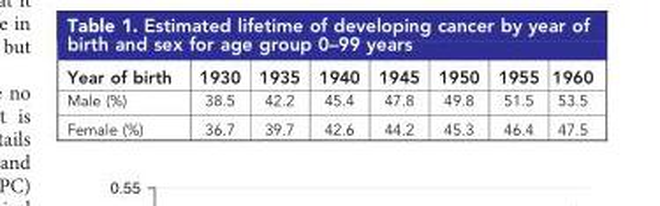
<table><thead><tr><td>Year of birth</td><td>1930</td><td>1935</td><td>1940</td><td>1945</td><td>1950</td><td>1955</td><td>1960</td></tr></thead><tbody><tr><td>Male (%)</td><td>38.5</td><td>42.2</td><td>45.4</td><td>47.8</td><td>49.8</td><td>51.5</td><td>53.5</td></tr><tr><td>Female (%)</td><td>36.7</td><td>39.7</td><td>42.6</td><td>44.2</td><td>45.3</td><td>46.4</td><td>47.5</td></tr></tbody></table>